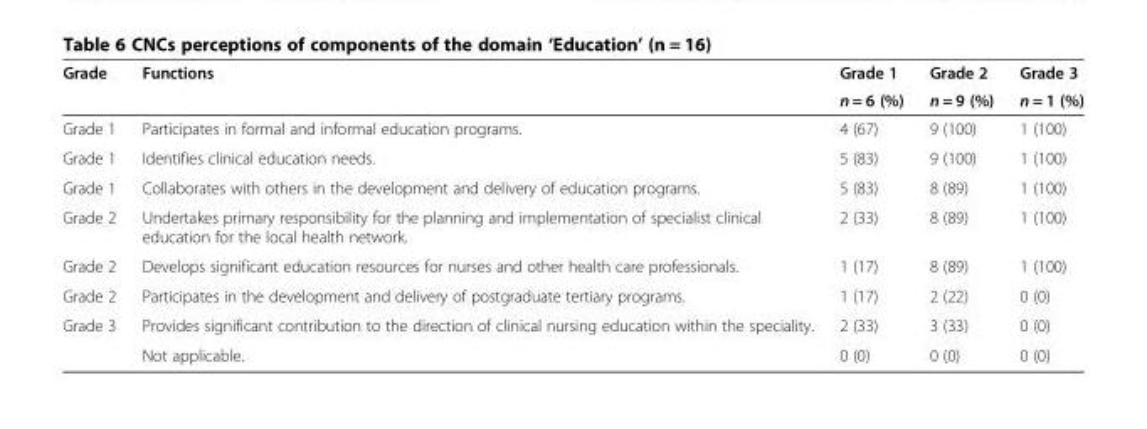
<table><thead><tr><td rowspan="2">Grade</td><td rowspan="2">Functions</td><td rowspan="2">Grade 1 n = 6 (%)</td><td rowspan="2">Grade 2 n = 9 (%)</td><td rowspan="2">Grade 3 n = 1 (%)</td></tr><tr></tr></thead><tbody><tr><td>Grade 1</td><td>Participates in formal and informal education programs.</td><td>4 (67)</td><td>9 (100)</td><td>1 (100)</td></tr><tr><td>Grade 1</td><td>Identifies clinical education needs.</td><td>5 (83)</td><td>9 (100)</td><td>1 (100)</td></tr><tr><td>Grade 1</td><td>Collaborates with others in the development and delivery of education programs.</td><td>5 (83)</td><td>8 (89)</td><td>1 (100)</td></tr><tr><td>Grade 2</td><td>Undertakes primary responsibility for the planning and implementation of specialist clinical education for the local health network.</td><td>2 (33)</td><td>8 (89)</td><td>1 (100)</td></tr><tr><td>Grade 2</td><td>Develops significant education resources for nurses and other health care professionals.</td><td>1 (17)</td><td>8 (89)</td><td>1 (100)</td></tr><tr><td>Grade 2</td><td>Participates in the development and delivery of postgraduate tertiary programs.</td><td>1 (17)</td><td>2 (22)</td><td>0 (0)</td></tr><tr><td rowspan="2">Grade 3</td><td>Provides significant contribution to the direction of clinical nursing education within the speciality.</td><td>2 (33)</td><td>3 (33)</td><td>0 (0)</td></tr><tr><td>Not applicable.</td><td>0 (0)</td><td>0 (0)</td><td>0 (0)</td></tr></tbody></table>